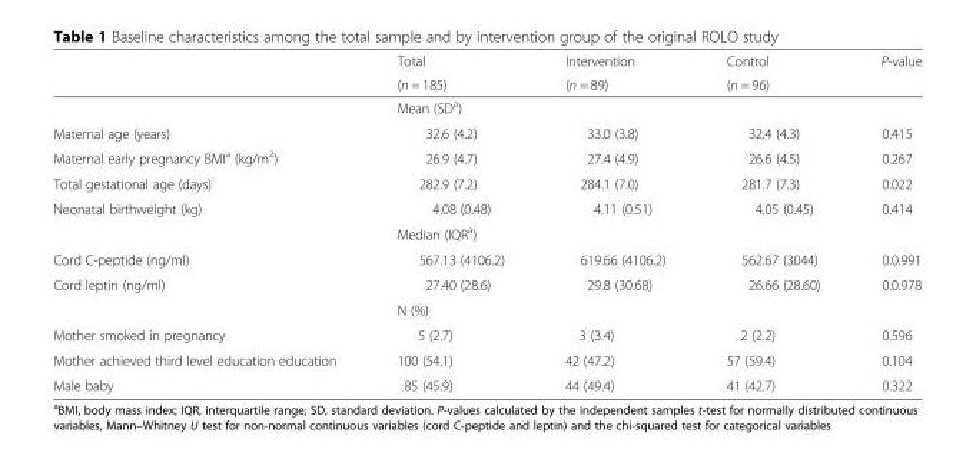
<table><thead><tr><td rowspan="2"></td><td rowspan="2">Total (n = 185)</td><td rowspan="2">Intervention (n = 89)</td><td rowspan="2">Control (n = 96)</td><td rowspan="2">P-value</td></tr><tr></tr></thead><tbody><tr><td></td><td colspan="3">Mean (SD<sup>a</sup>)</td><td></td></tr><tr><td>Maternal age (years)</td><td>32.6 (4.2)</td><td>33.0 (3.8)</td><td>32.4 (4.3)</td><td>0.415</td></tr><tr><td>Maternal early pregnancy BMI<sup>a</sup> (kg/m<sup>2</sup>)</td><td>26.9 (4.7)</td><td>27.4 (4.9)</td><td>26.6 (4.5)</td><td>0.267</td></tr><tr><td>Total gestational age (days)</td><td>282.9 (7.2)</td><td>284.1 (7.0)</td><td>281.7 (7.3)</td><td>0.022</td></tr><tr><td rowspan="2">Neonatal birthweight (kg)</td><td>4.08 (0.48)</td><td>4.11 (0.51)</td><td>4.05 (0.45)</td><td>0.414</td></tr><tr><td colspan="3">Median (IQR<sup>a</sup>)</td><td></td></tr><tr><td>Cord C-peptide (ng/ml)</td><td>567.13 (4106.2)</td><td>619.66 (4106.2)</td><td>562.67 (3044)</td><td>0.0.991</td></tr><tr><td rowspan="2">Cord leptin (ng/ml)</td><td>27.40 (28.6)</td><td>29.8 (30.68)</td><td>26.66 (28.60)</td><td>0.0.978</td></tr><tr><td colspan="3">N (%)</td><td></td></tr><tr><td>Mother smoked in pregnancy</td><td>5 (2.7)</td><td>3 (3.4)</td><td>2 (2.2)</td><td>0.596</td></tr><tr><td>Mother achieved third level education education</td><td>100 (54.1)</td><td>42 (47.2)</td><td>57 (59.4)</td><td>0.104</td></tr><tr><td>Male baby</td><td>85 (45.9)</td><td>44 (49.4)</td><td>41 (42.7)</td><td>0.322</td></tr></tbody></table>